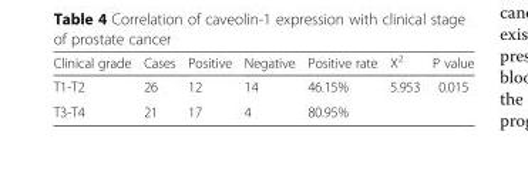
<table><thead><tr><td>Clinical grade</td><td>Cases</td><td>Positive</td><td>Negative</td><td>Positive rate</td><td>X<sup>2</sup></td><td>P value</td></tr></thead><tbody><tr><td>T1-T2</td><td>26</td><td>12</td><td>14</td><td>46.15%</td><td rowspan="2">5.953</td><td rowspan="2">0.015</td></tr><tr><td>T3-T4</td><td>21</td><td>17</td><td>4</td><td>80.95%</td></tr></tbody></table>